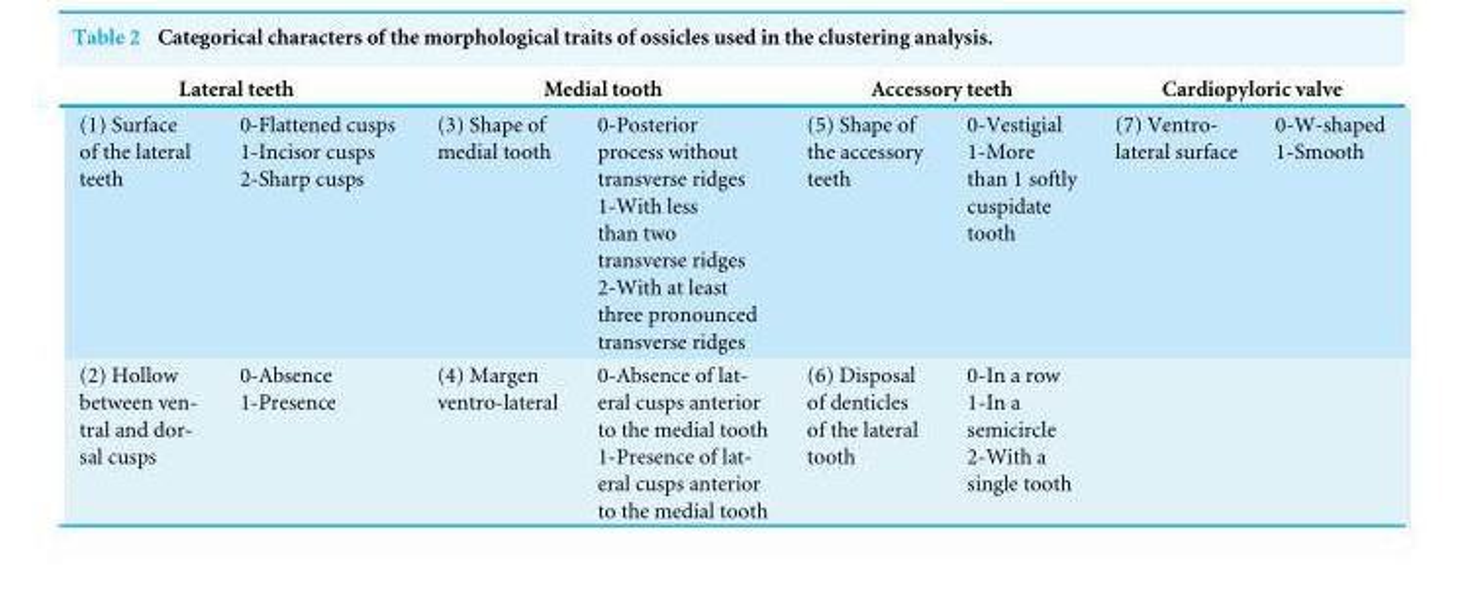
<table><thead><tr><td colspan="2">Lateral teeth</td><td colspan="2">Medial tooth</td><td colspan="2">Accessory teeth</td><td colspan="2">Cardiopyloric valve</td></tr><tr><td>;(1) Surface of the lateral teeth</td><td>0-Flattened cusps 1-Incisor cusps 2-Sharp cusps</td><td>(3) Shape of medial tooth</td><td>0-Posterior process without transverse ridges 1-With less than two transverse ridges 2-With at least three pronounced transverse ridges</td><td>(5) Shape of the accessory teeth</td><td>0-Vestigial 1-More than 1 softly cuspidate tooth</td><td>(7) Ventro- lateral surface</td><td>0-W-shaped 1-Smooth</td></tr></thead><tbody><tr><td>;(2) Hollow between ven- tral and dor- sal cusps</td><td>0-Absence 1-Presence</td><td>(4) Margen ventro-lateral</td><td>0-Absence of lat- eral cusps anterior to the medial tooth 1-Presence of lat- eral cusps anterior to the medial tooth</td><td>(6) Disposal of denticles of the lateral tooth</td><td>0-In a row 1-In a semicircle 2-With a single tooth</td><td></td><td></td></tr></tbody></table>